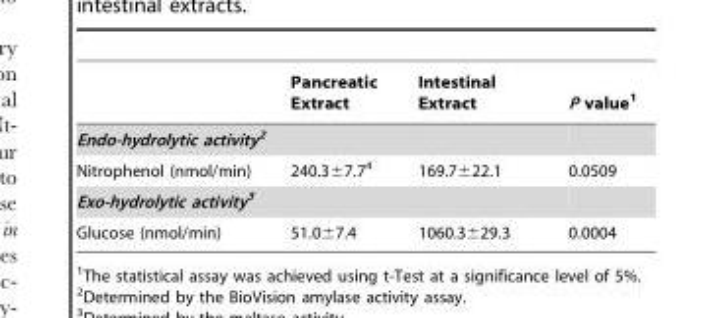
<table><thead><tr><td></td><td>Pancreatic Extract</td><td>Intestinal Extract</td><td>P value<sup>1</sup></td></tr></thead><tbody><tr><td colspan="4">Endo-hydrolytic activity2</td></tr><tr><td>Nitrophenol (nmol/min)</td><td>240.3±7.7<sup>4</sup></td><td>169.7±22.1</td><td>0.0509</td></tr><tr><td colspan="4">Exo-hydrolytic activity3</td></tr><tr><td>Glucose (nmol/min)</td><td>51.0±7.4</td><td>1060.3±29.3</td><td>0.0004</td></tr></tbody></table>